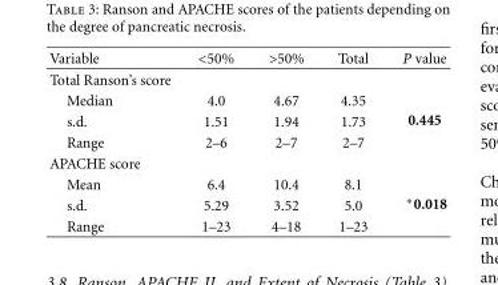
<table><thead><tr><td>Variable</td><td>&lt;50%</td><td>&gt;50%</td><td>Total</td><td>P value</td></tr></thead><tbody><tr><td colspan="5">Total Ranson’s score</td></tr><tr><td>Median</td><td>4.0</td><td>4.67</td><td>4.35</td><td rowspan="3">0.445</td></tr><tr><td>s.d.</td><td>1.51</td><td>1.94</td><td>1.73</td></tr><tr><td>Range</td><td>2–6</td><td>2–7</td><td>2–7</td></tr><tr><td colspan="5">APACHE score</td></tr><tr><td>Mean</td><td>6.4</td><td>10.4</td><td>8.1</td><td rowspan="3">∗0.018</td></tr><tr><td>s.d.</td><td>5.29</td><td>3.52</td><td>5.0</td></tr><tr><td>Range</td><td>1–23</td><td>4–18</td><td>1–23</td></tr></tbody></table>